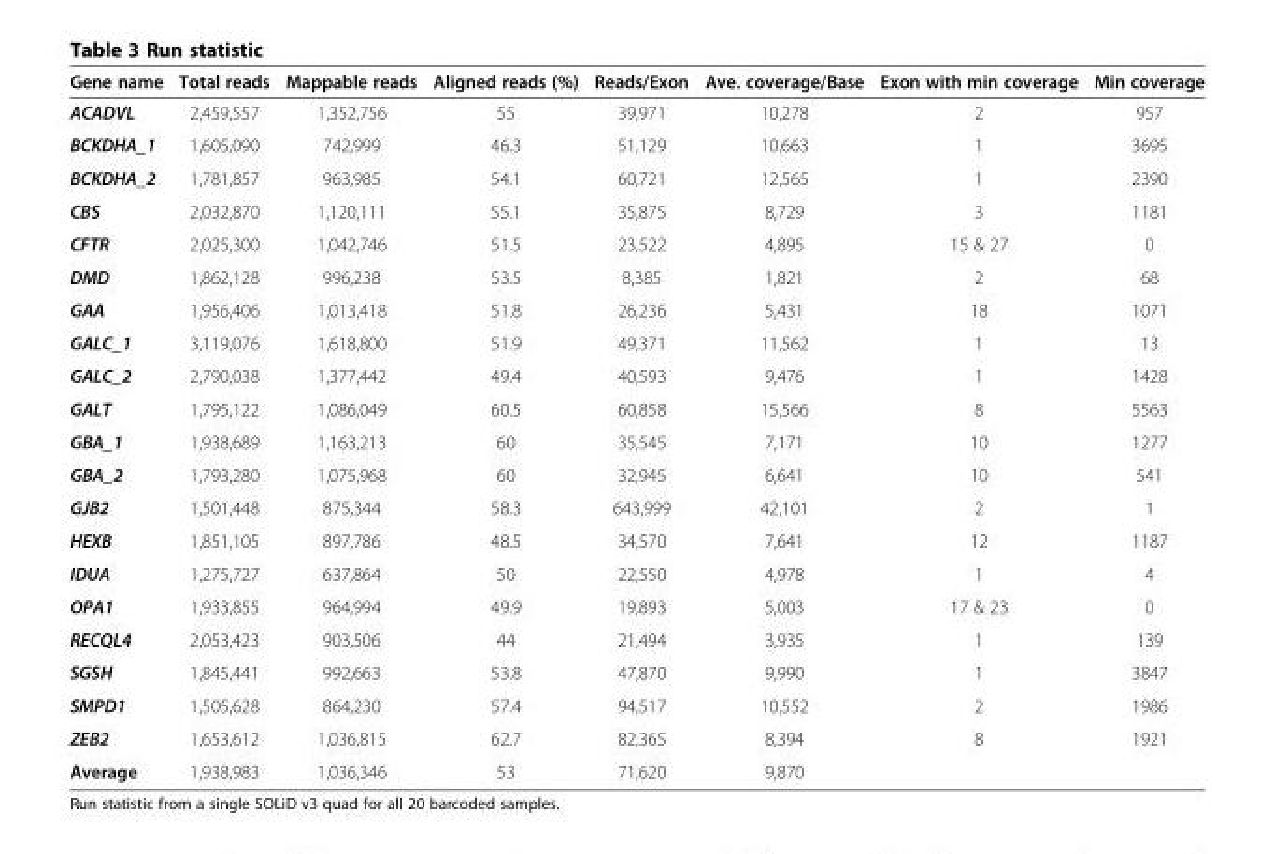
<table><thead><tr><td>Gene name</td><td>Total reads</td><td>Mappable reads</td><td>Aligned reads (%)</td><td>Reads/Exon</td><td>Ave. coverage/Base</td><td>Exon with min coverage</td><td>Min coverage</td></tr></thead><tbody><tr><td>ACADVL</td><td>2,459,557</td><td>1,352,756</td><td>55</td><td>39,971</td><td>10,278</td><td>2</td><td>957</td></tr><tr><td>BCKDHA_1</td><td>1,605,090</td><td>742,999</td><td>46.3</td><td>51,129</td><td>10,663</td><td>1</td><td>3695</td></tr><tr><td>BCKDHA_2</td><td>1,781,857</td><td>963,985</td><td>54.1</td><td>60,721</td><td>12,565</td><td>1</td><td>2390</td></tr><tr><td>CBS</td><td>2,032,870</td><td>1,120,111</td><td>55.1</td><td>35,875</td><td>8,729</td><td>3</td><td>1181</td></tr><tr><td>CFTR</td><td>2,025,300</td><td>1,042,746</td><td>51.5</td><td>23,522</td><td>4,895</td><td>15 &amp; 27</td><td>0</td></tr><tr><td>DMD</td><td>1,862,128</td><td>996,238</td><td>53.5</td><td>8,385</td><td>1,821</td><td>2</td><td>68</td></tr><tr><td>GAA</td><td>1,956,406</td><td>1,013,418</td><td>51.8</td><td>26,236</td><td>5,431</td><td>18</td><td>1071</td></tr><tr><td>GALC_1</td><td>3,119,076</td><td>1,618,800</td><td>51.9</td><td>49,371</td><td>11,562</td><td>1</td><td>13</td></tr><tr><td>GALC_2</td><td>2,790,038</td><td>1,377,442</td><td>49.4</td><td>40,593</td><td>9,476</td><td>1</td><td>1428</td></tr><tr><td>GALT</td><td>1,795,122</td><td>1,086,049</td><td>60.5</td><td>60,858</td><td>15,566</td><td>8</td><td>5563</td></tr><tr><td>GBA_1</td><td>1,938,689</td><td>1,163,213</td><td>60</td><td>35,545</td><td>7,171</td><td>10</td><td>1277</td></tr><tr><td>GBA_2</td><td>1,793,280</td><td>1,075,968</td><td>60</td><td>32,945</td><td>6,641</td><td>10</td><td>541</td></tr><tr><td>GJB2</td><td>1,501,448</td><td>875,344</td><td>58.3</td><td>643,999</td><td>42,101</td><td>2</td><td>1</td></tr><tr><td>HEXB</td><td>1,851,105</td><td>897,786</td><td>48.5</td><td>34,570</td><td>7,641</td><td>12</td><td>1187</td></tr><tr><td>IDUA</td><td>1,275,727</td><td>637,864</td><td>50</td><td>22,550</td><td>4,978</td><td>1</td><td>4</td></tr><tr><td>OPA1</td><td>1,933,855</td><td>964,994</td><td>49.9</td><td>19,893</td><td>5,003</td><td>17 &amp; 23</td><td>0</td></tr><tr><td>RECQL4</td><td>2,053,423</td><td>903,506</td><td>44</td><td>21,494</td><td>3,935</td><td>1</td><td>139</td></tr><tr><td>SGSH</td><td>1,845,441</td><td>992,663</td><td>53.8</td><td>47,870</td><td>9,990</td><td>1</td><td>3847</td></tr><tr><td>SMPD1</td><td>1,505,628</td><td>864,230</td><td>57.4</td><td>94,517</td><td>10,552</td><td>2</td><td>1986</td></tr><tr><td>ZEB2</td><td>1,653,612</td><td>1,036,815</td><td>62.7</td><td>82,365</td><td>8,394</td><td>8</td><td>1921</td></tr><tr><td>Average</td><td>1,938,983</td><td>1,036,346</td><td>53</td><td>71,620</td><td>9,870</td><td></td><td></td></tr></tbody></table>